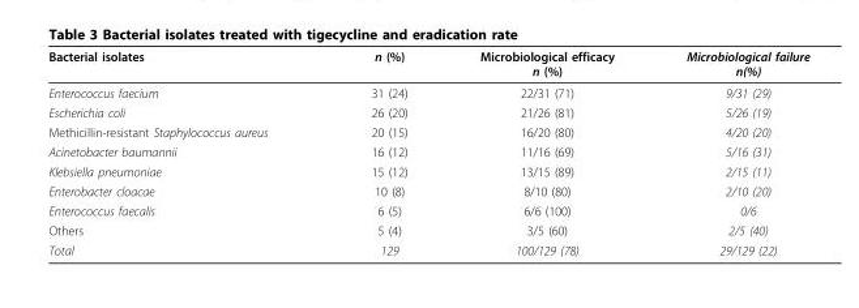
<table><thead><tr><td>Bacterial isolates</td><td>n (%)</td><td>Microbiological efficacy n (%)</td><td>Microbiological failure n(%)</td></tr></thead><tbody><tr><td>Enterococcus faecium</td><td>31 (24)</td><td>22/31 (71)</td><td>9/31 (29)</td></tr><tr><td>Escherichia coli</td><td>26 (20)</td><td>21/26 (81)</td><td>5/26 (19)</td></tr><tr><td>Methicillin-resistant Staphylococcus aureus</td><td>20 (15)</td><td>16/20 (80)</td><td>4/20 (20)</td></tr><tr><td>Acinetobacter baumannii</td><td>16 (12)</td><td>11/16 (69)</td><td>5/16 (31)</td></tr><tr><td>Klebsiella pneumoniae</td><td>15 (12)</td><td>13/15 (89)</td><td>2/15 (11)</td></tr><tr><td>Enterobacter cloacae</td><td>10 (8)</td><td>8/10 (80)</td><td>2/10 (20)</td></tr><tr><td>Enterococcus faecalis</td><td>6 (5)</td><td>6/6 (100)</td><td>0/6</td></tr><tr><td>Others</td><td>5 (4)</td><td>3/5 (60)</td><td>2/5 (40)</td></tr><tr><td>Total</td><td>129</td><td>100/129 (78)</td><td>29/129 (22)</td></tr></tbody></table>